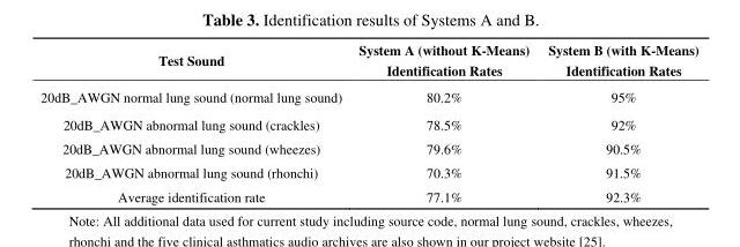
<table><thead><tr><td>Test Sound</td><td>System A (without K-Means) Identification Rates</td><td>System B (with K-Means) Identification Rates</td></tr></thead><tbody><tr><td>20dB_AWGN normal lung sound (normal lung sound)</td><td>80.2%</td><td>95%</td></tr><tr><td>20dB_AWGN abnormal lung sound (crackles)</td><td>78.5%</td><td>92%</td></tr><tr><td>20dB_AWGN abnormal lung sound (wheezes)</td><td>79.6%</td><td>90.5%</td></tr><tr><td>20dB_AWGN abnormal lung sound (rhonchi)</td><td>70.3%</td><td>91.5%</td></tr><tr><td>Average identification rate</td><td>77.1%</td><td>92.3%</td></tr></tbody></table>